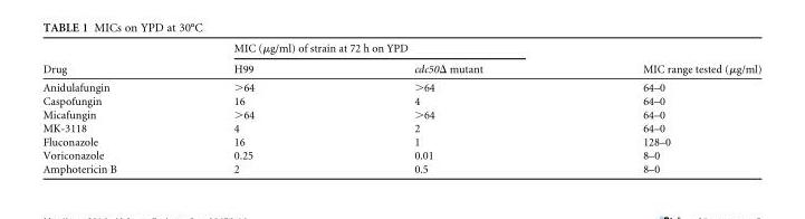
<table><thead><tr><td rowspan="2">Drug</td><td colspan="2">MIC (µg/ml) of strain at 72 h on YPD</td><td rowspan="2">MIC range tested (µg/ml)</td></tr><tr><td>H99</td><td>cdc50Δ mutant</td></tr></thead><tbody><tr><td>Anidulafungin</td><td>&gt;64</td><td>&gt;64</td><td>64–0</td></tr><tr><td>Caspofungin</td><td>16</td><td>4</td><td>64–0</td></tr><tr><td>Micafungin</td><td>&gt;64</td><td>&gt;64</td><td>64–0</td></tr><tr><td>MK-3118</td><td>4</td><td>2</td><td>64–0</td></tr><tr><td>Fluconazole</td><td>16</td><td>1</td><td>128–0</td></tr><tr><td>Voriconazole</td><td>0.25</td><td>0.01</td><td>8–0</td></tr><tr><td>Amphotericin B</td><td>2</td><td>0.5</td><td>8–0</td></tr></tbody></table>